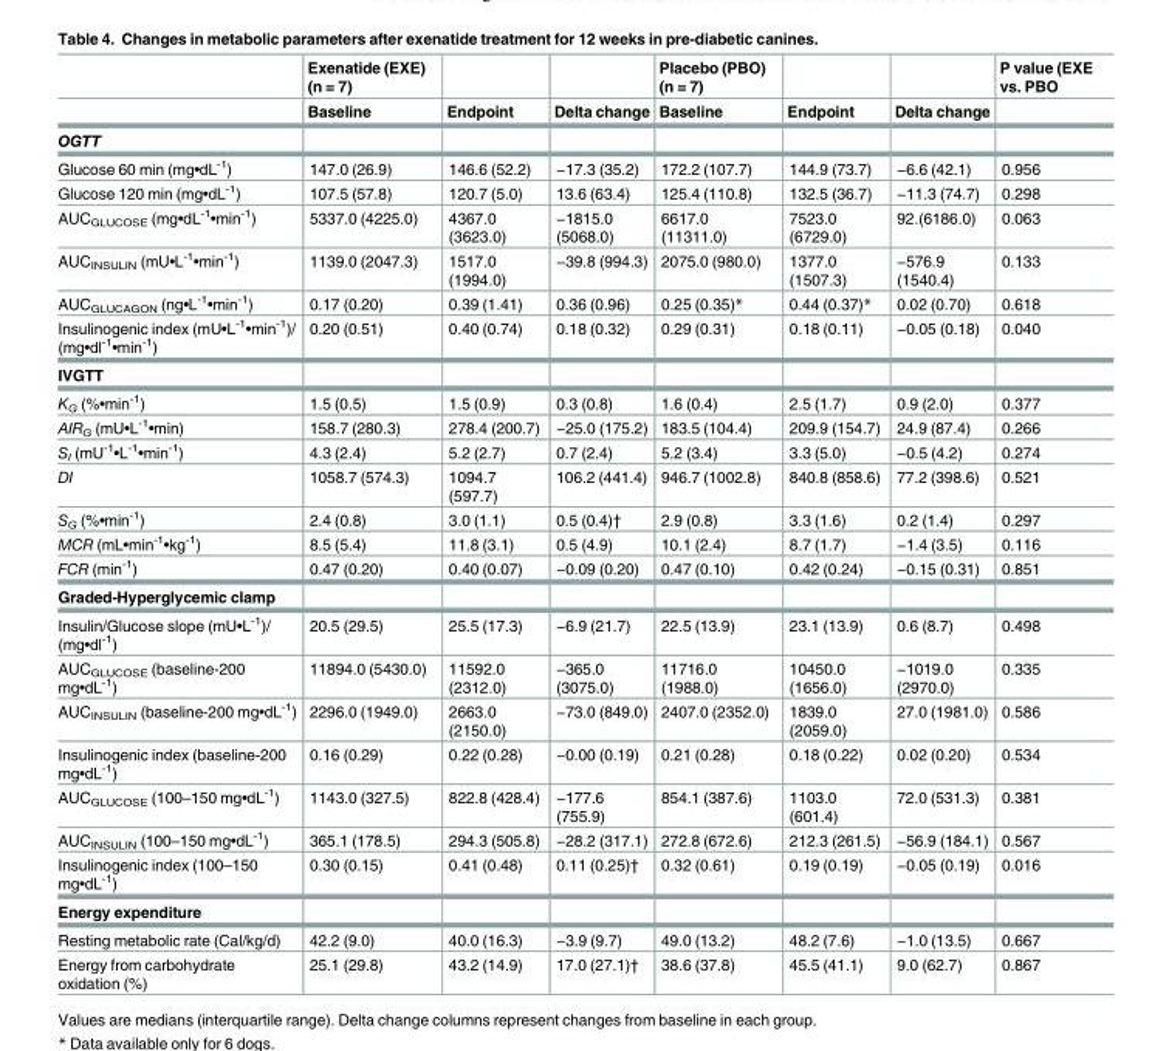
<table><thead><tr><td rowspan="2"></td><td rowspan="2">Exenatide (EXE) (n = 7) Baseline</td><td rowspan="2">Endpoint</td><td rowspan="2">Delta change</td><td rowspan="2">Placebo (PBO) (n = 7) Baseline</td><td rowspan="2">Endpoint</td><td rowspan="2">Delta change</td><td rowspan="2">P value (EXE vs. PBO</td></tr><tr></tr></thead><tbody><tr><td colspan="8">OGTT</td></tr><tr><td>Glucose 60 min (mg•dL<sup>-1</sup>)</td><td>147.0 (26.9)</td><td>146.6 (52.2)</td><td>−17.3 (35.2)</td><td>172.2 (107.7)</td><td>144.9 (73.7)</td><td>−6.6 (42.1)</td><td>0.956</td></tr><tr><td>Glucose 120 min (mg•dL<sup>-1</sup>)</td><td>107.5 (57.8)</td><td>120.7 (5.0)</td><td>13.6 (63.4)</td><td>125.4 (110.8)</td><td>132.5 (36.7)</td><td>−11.3 (74.7)</td><td>0.298</td></tr><tr><td>AUC<sub>GLUCOSE</sub> (mg•dL<sup>-1</sup>•min<sup>-1</sup>)</td><td>5337.0 (4225.0)</td><td>4367.0 (3623.0)</td><td>−1815.0 (5068.0)</td><td>6617.0 (11311.0)</td><td>7523.0 (6729.0)</td><td>92.(6186.0)</td><td>0.063</td></tr><tr><td>AUC<sub>INSULIN</sub> (mU•L<sup>-1</sup>•min<sup>-1</sup>)</td><td>1139.0 (2047.3)</td><td>1517.0 (1994.0)</td><td>−39.8 (994.3)</td><td>2075.0 (980.0)</td><td>1377.0 (1507.3)</td><td>−576.9 (1540.4)</td><td>0.133</td></tr><tr><td>AUC<sub>GLUCAGON</sub> (ng•L<sup>-1</sup>•min<sup>-1</sup>)</td><td>0.17 (0.20)</td><td>0.39 (1.41)</td><td>0.36 (0.96)</td><td>0.25 (0.35)*</td><td>0.44 (0.37)*</td><td>0.02 (0.70)</td><td>0.618</td></tr><tr><td>Insulinogenic index (mU•L<sup>-1</sup>•min<sup>-1</sup>)/ (mg•dl<sup>-1</sup>•min<sup>-1</sup>)</td><td>0.20 (0.51)</td><td>0.40 (0.74)</td><td>0.18 (0.32)</td><td>0.29 (0.31)</td><td>0.18 (0.11)</td><td>−0.05 (0.18)</td><td>0.040</td></tr><tr><td colspan="8">IVGTT</td></tr><tr><td>K<sub>G</sub> (%•min<sup>-1</sup>)</td><td>1.5 (0.5)</td><td>1.5 (0.9)</td><td>0.3 (0.8)</td><td>1.6 (0.4)</td><td>2.5 (1.7)</td><td>0.9 (2.0)</td><td>0.377</td></tr><tr><td>AIR<sub>G</sub> (mU•L<sup>-1</sup>•min)</td><td>158.7 (280.3)</td><td>278.4 (200.7)</td><td>−25.0 (175.2)</td><td>183.5 (104.4)</td><td>209.9 (154.7)</td><td>24.9 (87.4)</td><td>0.266</td></tr><tr><td>S<sub>I</sub> (mU<sup>-1</sup>•L<sup>-1</sup>•min<sup>-1</sup>)</td><td>4.3 (2.4)</td><td>5.2 (2.7)</td><td>0.7 (2.4)</td><td>5.2 (3.4)</td><td>3.3 (5.0)</td><td>−0.5 (4.2)</td><td>0.274</td></tr><tr><td>DI</td><td>1058.7 (574.3)</td><td>1094.7 (597.7)</td><td>106.2 (441.4)</td><td>946.7 (1002.8)</td><td>840.8 (858.6)</td><td>77.2 (398.6)</td><td>0.521</td></tr><tr><td>S<sub>G</sub> (%•min<sup>-1</sup>)</td><td>2.4 (0.8)</td><td>3.0 (1.1)</td><td>0.5 (0.4)†</td><td>2.9 (0.8)</td><td>3.3 (1.6)</td><td>0.2 (1.4)</td><td>0.297</td></tr><tr><td>MCR (mL•min<sup>-1</sup>•kg<sup>-1</sup>)</td><td>8.5 (5.4)</td><td>11.8 (3.1)</td><td>0.5 (4.9)</td><td>10.1 (2.4)</td><td>8.7 (1.7)</td><td>−1.4 (3.5)</td><td>0.116</td></tr><tr><td>FCR (min<sup>-1</sup>)</td><td>0.47 (0.20)</td><td>0.40 (0.07)</td><td>−0.09 (0.20)</td><td>0.47 (0.10)</td><td>0.42 (0.24)</td><td>−0.15 (0.31)</td><td>0.851</td></tr><tr><td colspan="8">Graded-Hyperglycemic clamp</td></tr><tr><td>Insulin/Glucose slope (mU•L<sup>-1</sup>)/ (mg•dl<sup>-1</sup>)</td><td>20.5 (29.5)</td><td>25.5 (17.3)</td><td>−6.9 (21.7)</td><td>22.5 (13.9)</td><td>23.1 (13.9)</td><td>0.6 (8.7)</td><td>0.498</td></tr><tr><td>AUC<sub>GLUCOSE</sub> (baseline-200 mg•dL<sup>-1</sup>)</td><td>11894.0 (5430.0)</td><td>11592.0 (2312.0)</td><td>−365.0 (3075.0)</td><td>11716.0 (1988.0)</td><td>10450.0 (1656.0)</td><td>−1019.0 (2970.0)</td><td>0.335</td></tr><tr><td>AUC<sub>INSULIN</sub> (baseline-200 mg•dL<sup>-1</sup>)</td><td>2296.0 (1949.0)</td><td>2663.0 (2150.0)</td><td>−73.0 (849.0)</td><td>2407.0 (2352.0)</td><td>1839.0 (2059.0)</td><td>27.0 (1981.0)</td><td>0.586</td></tr><tr><td>Insulinogenic index (baseline-200 mg•dL<sup>-1</sup>)</td><td>0.16 (0.29)</td><td>0.22 (0.28)</td><td>−0.00 (0.19)</td><td>0.21 (0.28)</td><td>0.18 (0.22)</td><td>0.02 (0.20)</td><td>0.534</td></tr><tr><td>AUC<sub>GLUCOSE</sub> (100–150 mg•dL<sup>-1</sup>)</td><td>1143.0 (327.5)</td><td>822.8 (428.4)</td><td>−177.6 (755.9)</td><td>854.1 (387.6)</td><td>1103.0 (601.4)</td><td>72.0 (531.3)</td><td>0.381</td></tr><tr><td>AUC<sub>INSULIN</sub> (100–150 mg•dL<sup>-1</sup>)</td><td>365.1 (178.5)</td><td>294.3 (505.8)</td><td>−28.2 (317.1)</td><td>272.8 (672.6)</td><td>212.3 (261.5)</td><td>−56.9 (184.1)</td><td>0.567</td></tr><tr><td>Insulinogenic index (100–150 mg•dL<sup>-1</sup>)</td><td>0.30 (0.15)</td><td>0.41 (0.48)</td><td>0.11 (0.25)†</td><td>0.32 (0.61)</td><td>0.19 (0.19)</td><td>−0.05 (0.19)</td><td>0.016</td></tr><tr><td colspan="8">Energy expenditure</td></tr><tr><td>Resting metabolic rate (Cal/kg/d)</td><td>42.2 (9.0)</td><td>40.0 (16.3)</td><td>−3.9 (9.7)</td><td>49.0 (13.2)</td><td>48.2 (7.6)</td><td>−1.0 (13.5)</td><td>0.667</td></tr><tr><td>Energy from carbohydrate oxidation (%)</td><td>25.1 (29.8)</td><td>43.2 (14.9)</td><td>17.0 (27.1)†</td><td>38.6 (37.8)</td><td>45.5 (41.1)</td><td>9.0 (62.7)</td><td>0.867</td></tr></tbody></table>